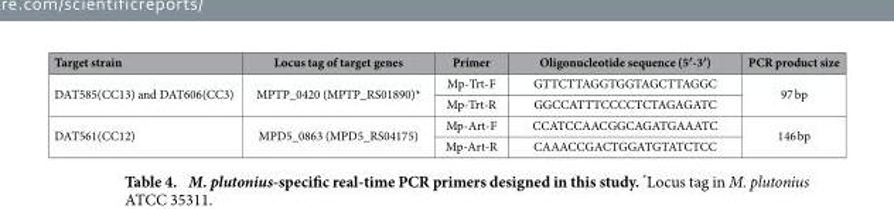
<table><thead><tr><td>Target strain</td><td>Locus tag of target genes</td><td>Primer</td><td>Oligonucleotide sequence (5′-3′)</td><td>PCR product size</td></tr></thead><tbody><tr><td rowspan="2">DAT585(CC13) and DAT606(CC3)</td><td rowspan="2">MPTP_0420 (MPTP_RS01890)*</td><td>Mp-Trt-F</td><td>GTTCTTAGGTGGTAGCTTAGGC</td><td rowspan="2">97 bp</td></tr><tr><td>Mp-Trt-R</td><td>GGCCATTTCCCCTCTAGAGATC</td></tr><tr><td rowspan="2">DAT561(CC12)</td><td rowspan="2">MPD5_0863 (MPD5_RS04175)</td><td>Mp-Art-F</td><td>CCATCCAACGGCAGATGAAATC</td><td rowspan="2">146 bp</td></tr><tr><td>Mp-Art-R</td><td>CAAACCGACTGGATGTATCTCC</td></tr></tbody></table>